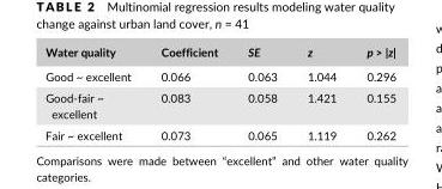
<table><thead><tr><td>Water quality</td><td>Coefficient</td><td>SE</td><td>z</td><td>p &gt; |z|</td></tr></thead><tbody><tr><td>Good ~ excellent</td><td>0.066</td><td>0.063</td><td>1.044</td><td>0.296</td></tr><tr><td>Good- fair ~ excellent</td><td>0.083</td><td>0.058</td><td>1.421</td><td>0.155</td></tr><tr><td>Fair ~ excellent</td><td>0.073</td><td>0.065</td><td>1.119</td><td>0.262</td></tr></tbody></table>